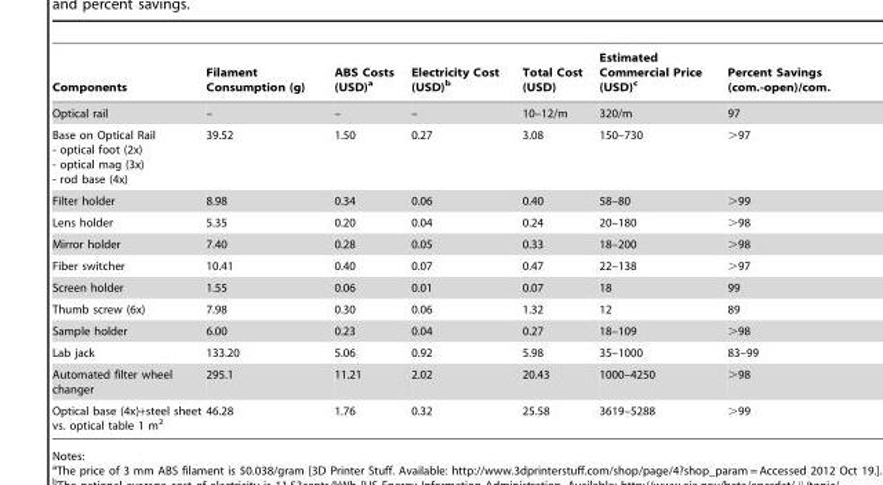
<table><thead><tr><td>Components</td><td>Filament Consumption (g)</td><td>ABS Costs (USD)<sup>a</sup></td><td>Electricity Cost (USD)<sup>b</sup></td><td>Total Cost (USD)</td><td>Estimated Commercial Price (USD)<sup>c</sup></td><td>Percent Savings (com.-open)/com.</td></tr></thead><tbody><tr><td>Optical rail</td><td>–</td><td>–</td><td>–</td><td>10–12/m</td><td>320/m</td><td>97</td></tr><tr><td>Base on Optical Rail - optical foot (2x) - optical mag (3x) - rod base (4x)</td><td>39.52</td><td>1.50</td><td>0.27</td><td>3.08</td><td>150–730</td><td>&gt;97</td></tr><tr><td>Filter holder</td><td>8.98</td><td>0.34</td><td>0.06</td><td>0.40</td><td>58–80</td><td>&gt;99</td></tr><tr><td>Lens holder</td><td>5.35</td><td>0.20</td><td>0.04</td><td>0.24</td><td>20–180</td><td>&gt;98</td></tr><tr><td>Mirror holder</td><td>7.40</td><td>0.28</td><td>0.05</td><td>0.33</td><td>18–200</td><td>&gt;98</td></tr><tr><td>Fiber switcher</td><td>10.41</td><td>0.40</td><td>0.07</td><td>0.47</td><td>22–138</td><td>&gt;97</td></tr><tr><td>Screen holder</td><td>1.55</td><td>0.06</td><td>0.01</td><td>0.07</td><td>18</td><td>99</td></tr><tr><td>Thumb screw (6x)</td><td>7.98</td><td>0.30</td><td>0.06</td><td>1.32</td><td>12</td><td>89</td></tr><tr><td>Sample holder</td><td>6.00</td><td>0.23</td><td>0.04</td><td>0.27</td><td>18–109</td><td>&gt;98</td></tr><tr><td>Lab jack</td><td>133.20</td><td>5.06</td><td>0.92</td><td>5.98</td><td>35–1000</td><td>83–99</td></tr><tr><td>Automated filter wheel changer</td><td>295.1</td><td>11.21</td><td>2.02</td><td>20.43</td><td>1000–4250</td><td>&gt;98</td></tr><tr><td>Optical base (4x)+steel sheet vs. optical table 1 m<sup>2</sup></td><td>46.28</td><td>1.76</td><td>0.32</td><td>25.58</td><td>3619–5288</td><td>&gt;99</td></tr></tbody></table>